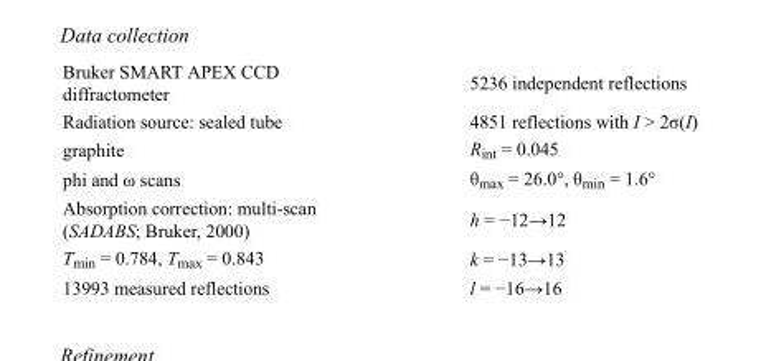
<table><tbody><tr><td>Bruker SMART APEX CCD diffractometer</td><td>5236 independent reflections</td></tr><tr><td>Radiation source: sealed tube</td><td>4851 reflections with I &gt; 2σ(I)</td></tr><tr><td>graphite</td><td>R<sub>int</sub> = 0.045</td></tr><tr><td>phi and ω scans</td><td>θ<sub>max</sub> = 26.0°, θ<sub>min</sub> = 1.6°</td></tr><tr><td>Absorption correction: multi-scan (SADABS; Bruker, 2000)</td><td>h = −12→12</td></tr><tr><td>T<sub>min</sub> = 0.784, T<sub>max</sub> = 0.843</td><td>k = −13→13</td></tr><tr><td>13993 measured reflections</td><td>l = −16→16</td></tr></tbody></table>